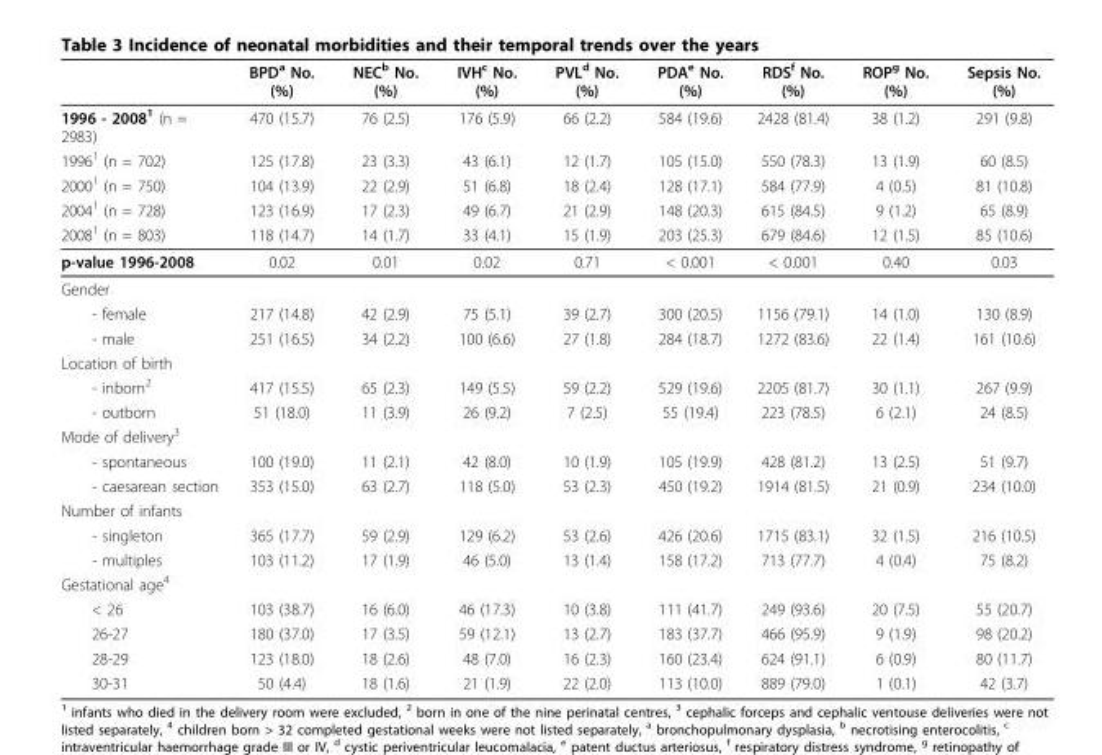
<table><thead><tr><td></td><td>BPD<sup>a</sup> No. (%)</td><td>NEC<sup>b</sup> No. (%)</td><td>IVH<sup>c</sup> No. (%)</td><td>PVL<sup>d</sup> No. (%)</td><td>PDA<sup>e</sup> No. (%)</td><td>RDS<sup>f</sup> No. (%)</td><td>ROP<sup>g</sup> No. (%)</td><td>Sepsis No. (%)</td></tr></thead><tbody><tr><td>1996 - 2008<sup>1</sup> (n = 2983)</td><td>470 (15.7)</td><td>76 (2.5)</td><td>176 (5.9)</td><td>66 (2.2)</td><td>584 (19.6)</td><td>2428 (81.4)</td><td>38 (1.2)</td><td>291 (9.8)</td></tr><tr><td>1996<sup>1</sup> (n = 702)</td><td>125 (17.8)</td><td>23 (3.3)</td><td>43 (6.1)</td><td>12 (1.7)</td><td>105 (15.0)</td><td>550 (78.3)</td><td>13 (1.9)</td><td>60 (8.5)</td></tr><tr><td>2000<sup>1</sup> (n = 750)</td><td>104 (13.9)</td><td>22 (2.9)</td><td>51 (6.8)</td><td>18 (2.4)</td><td>128 (17.1)</td><td>584 (77.9)</td><td>4 (0.5)</td><td>81 (10.8)</td></tr><tr><td>2004<sup>1</sup> (n = 728)</td><td>123 (16.9)</td><td>17 (2.3)</td><td>49 (6.7)</td><td>21 (2.9)</td><td>148 (20.3)</td><td>615 (84.5)</td><td>9 (1.2)</td><td>65 (8.9)</td></tr><tr><td>2008<sup>1</sup> (n = 803)</td><td>118 (14.7)</td><td>14 (1.7)</td><td>33 (4.1)</td><td>15 (1.9)</td><td>203 (25.3)</td><td>679 (84.6)</td><td>12 (1.5)</td><td>85 (10.6)</td></tr><tr><td>p-value 1996-2008</td><td>0.02</td><td>0.01</td><td>0.02</td><td>0.71</td><td>&lt; 0.001</td><td>&lt; 0.001</td><td>0.40</td><td>0.03</td></tr><tr><td colspan="9">Gender</td></tr><tr><td>- female</td><td>217 (14.8)</td><td>42 (2.9)</td><td>75 (5.1)</td><td>39 (2.7)</td><td>300 (20.5)</td><td>1156 (79.1)</td><td>14 (1.0)</td><td>130 (8.9)</td></tr><tr><td>- male</td><td>251 (16.5)</td><td>34 (2.2)</td><td>100 (6.6)</td><td>27 (1.8)</td><td>284 (18.7)</td><td>1272 (83.6)</td><td>22 (1.4)</td><td>161 (10.6)</td></tr><tr><td colspan="9">Location of birth</td></tr><tr><td>- inborn<sup>2</sup></td><td>417 (15.5)</td><td>65 (2.3)</td><td>149 (5.5)</td><td>59 (2.2)</td><td>529 (19.6)</td><td>2205 (81.7)</td><td>30 (1.1)</td><td>267 (9.9)</td></tr><tr><td>- outborn</td><td>51 (18.0)</td><td>11 (3.9)</td><td>26 (9.2)</td><td>7 (2.5)</td><td>55 (19.4)</td><td>223 (78.5)</td><td>6 (2.1)</td><td>24 (8.5)</td></tr><tr><td colspan="9">Mode of delivery<sup>3</sup></td></tr><tr><td>- spontaneous</td><td>100 (19.0)</td><td>11 (2.1)</td><td>42 (8.0)</td><td>10 (1.9)</td><td>105 (19.9)</td><td>428 (81.2)</td><td>13 (2.5)</td><td>51 (9.7)</td></tr><tr><td>- caesarean section</td><td>353 (15.0)</td><td>63 (2.7)</td><td>118 (5.0)</td><td>53 (2.3)</td><td>450 (19.2)</td><td>1914 (81.5)</td><td>21 (0.9)</td><td>234 (10.0)</td></tr><tr><td colspan="9">Number of infants</td></tr><tr><td>- singleton</td><td>365 (17.7)</td><td>59 (2.9)</td><td>129 (6.2)</td><td>53 (2.6)</td><td>426 (20.6)</td><td>1715 (83.1)</td><td>32 (1.5)</td><td>216 (10.5)</td></tr><tr><td>- multiples</td><td>103 (11.2)</td><td>17 (1.9)</td><td>46 (5.0)</td><td>13 (1.4)</td><td>158 (17.2)</td><td>713 (77.7)</td><td>4 (0.4)</td><td>75 (8.2)</td></tr><tr><td colspan="9">Gestational age<sup>4</sup></td></tr><tr><td>&lt; 26</td><td>103 (38.7)</td><td>16 (6.0)</td><td>46 (17.3)</td><td>10 (3.8)</td><td>111 (41.7)</td><td>249 (93.6)</td><td>20 (7.5)</td><td>55 (20.7)</td></tr><tr><td>26-27</td><td>180 (37.0)</td><td>17 (3.5)</td><td>59 (12.1)</td><td>13 (2.7)</td><td>183 (37.7)</td><td>466 (95.9)</td><td>9 (1.9)</td><td>98 (20.2)</td></tr><tr><td>28-29</td><td>123 (18.0)</td><td>18 (2.6)</td><td>48 (7.0)</td><td>16 (2.3)</td><td>160 (23.4)</td><td>624 (91.1)</td><td>6 (0.9)</td><td>80 (11.7)</td></tr><tr><td>30-31</td><td>50 (4.4)</td><td>18 (1.6)</td><td>21 (1.9)</td><td>22 (2.0)</td><td>113 (10.0)</td><td>889 (79.0)</td><td>1 (0.1)</td><td>42 (3.7)</td></tr></tbody></table>